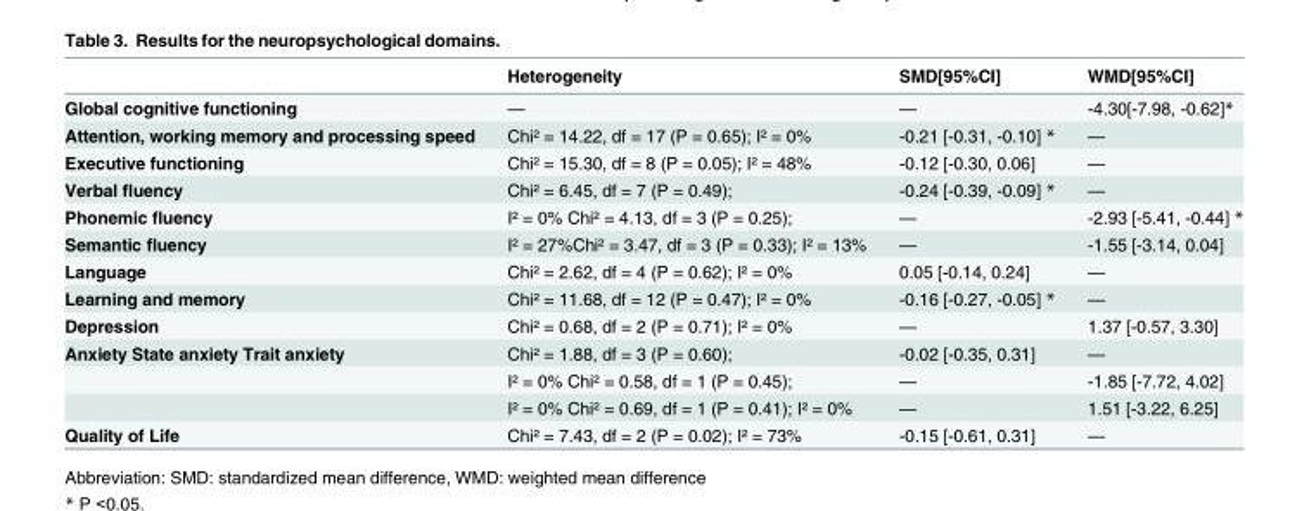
<table><thead><tr><td></td><td>Heterogeneity</td><td>SMD[95%CI]</td><td>WMD[95%CI]</td></tr></thead><tbody><tr><td>Global cognitive functioning</td><td>—</td><td>—</td><td>-4.30[-7.98, -0.62]*</td></tr><tr><td>Attention, working memory and processing speed</td><td>Chi² = 14.22, df = 17 (P = 0.65); I² = 0%</td><td>-0.21 [-0.31, -0.10] *</td><td>—</td></tr><tr><td>Executive functioning</td><td>Chi² = 15.30, df = 8 (P = 0.05); I² = 48%</td><td>-0.12 [-0.30, 0.06]</td><td>—</td></tr><tr><td>Verbal fluency</td><td>Chi² = 6.45, df = 7 (P = 0.49);</td><td>-0.24 [-0.39, -0.09] *</td><td>—</td></tr><tr><td>Phonemic fluency</td><td>I² = 0% Chi² = 4.13, df = 3 (P = 0.25);</td><td>—</td><td>-2.93 [-5.41, -0.44] *</td></tr><tr><td>Semantic fluency</td><td>I² = 27%Chi² = 3.47, df = 3 (P = 0.33); I² = 13%</td><td>—</td><td>-1.55 [-3.14, 0.04]</td></tr><tr><td>Language</td><td>Chi² = 2.62, df = 4 (P = 0.62); I² = 0%</td><td>0.05 [-0.14, 0.24]</td><td>—</td></tr><tr><td>Learning and memory</td><td>Chi² = 11.68, df = 12 (P = 0.47); I² = 0%</td><td>-0.16 [-0.27, -0.05] *</td><td>—</td></tr><tr><td>Depression</td><td>Chi² = 0.68, df = 2 (P = 0.71); I² = 0%</td><td>—</td><td>1.37 [-0.57, 3.30]</td></tr><tr><td rowspan="3">Anxiety State anxiety Trait anxiety</td><td>Chi² = 1.88, df = 3 (P = 0.60);</td><td>-0.02 [-0.35, 0.31]</td><td>—</td></tr><tr><td>I² = 0% Chi² = 0.58, df = 1 (P = 0.45);</td><td>—</td><td>-1.85 [-7.72, 4.02]</td></tr><tr><td>I² = 0% Chi² = 0.69, df = 1 (P = 0.41); I² = 0%</td><td>—</td><td>1.51 [-3.22, 6.25]</td></tr><tr><td>Quality of Life</td><td>Chi² = 7.43, df = 2 (P = 0.02); I² = 73%</td><td>-0.15 [-0.61, 0.31]</td><td>—</td></tr></tbody></table>